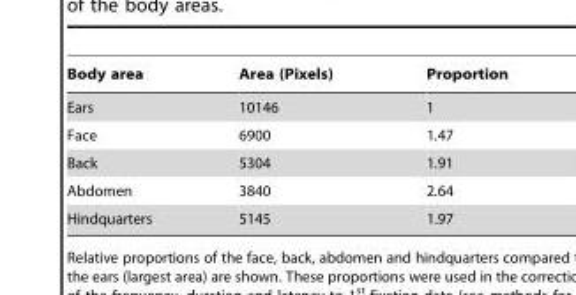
<table><thead><tr><td>Body area</td><td>Area (Pixels)</td><td>Proportion</td></tr></thead><tbody><tr><td>Ears</td><td>10146</td><td>1</td></tr><tr><td>Face</td><td>6900</td><td>1.47</td></tr><tr><td>Back</td><td>5304</td><td>1.91</td></tr><tr><td>Abdomen</td><td>3840</td><td>2.64</td></tr><tr><td>Hindquarters</td><td>5145</td><td>1.97</td></tr></tbody></table>